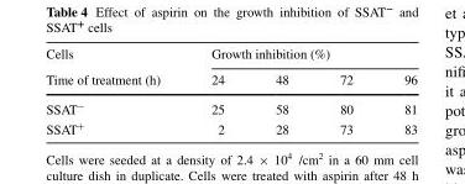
<table><thead><tr><td rowspan="2">Cells Time of treatment (h)</td><td colspan="4">Growth inhibition (%)</td></tr><tr><td>24</td><td>48</td><td>72</td><td>96</td></tr></thead><tbody><tr><td>SSAT<sup>−</sup></td><td>25</td><td>58</td><td>80</td><td>81</td></tr><tr><td>SSAT<sup>+</sup></td><td>2</td><td>28</td><td>73</td><td>83</td></tr></tbody></table>